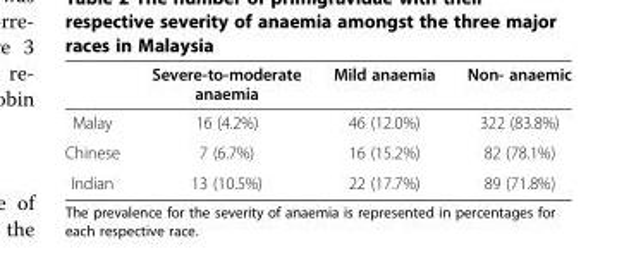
<table><thead><tr><td></td><td>Severe-to-moderate anaemia</td><td>Mild anaemia</td><td>Non- anaemic</td></tr></thead><tbody><tr><td>Malay</td><td>16 (4.2%)</td><td>46 (12.0%)</td><td>322 (83.8%)</td></tr><tr><td>Chinese</td><td>7 (6.7%)</td><td>16 (15.2%)</td><td>82 (78.1%)</td></tr><tr><td>Indian</td><td>13 (10.5%)</td><td>22 (17.7%)</td><td>89 (71.8%)</td></tr></tbody></table>